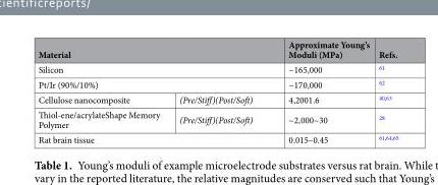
<table><thead><tr><td rowspan="3" colspan="2">Material Silicon Pt/Ir (90%/10%)</td><td rowspan="4">Approximate Young’s Moduli (MPa) ~165,000 ~170,000 4,2001.6</td><td rowspan="4">Refs. 61 62 40,63</td></tr><tr></tr><tr></tr><tr><td>Cellulose nanocomposite</td><td>(Pre/Stiff)(Post/Soft)</td></tr></thead><tbody><tr><td>Thiol-ene/acrylateShape Memory Polymer</td><td>(Pre/Stiff)(Post/Soft)</td><td>~2,000~30</td><td><sup>28</sup></td></tr><tr><td colspan="2">Rat brain tissue</td><td>0.015–0.45</td><td><sup>61,64,65</sup></td></tr></tbody></table>